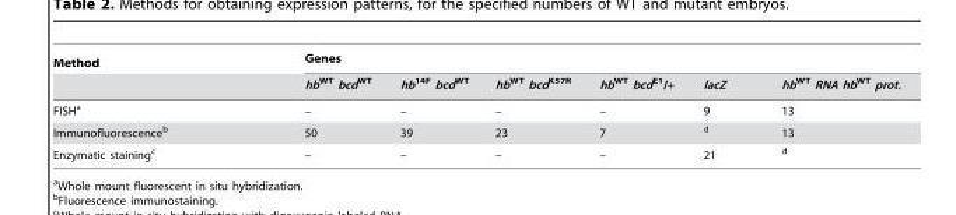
<table><thead><tr><td rowspan="2">Method</td><td colspan="6">Genes</td></tr><tr><td>hb<sup>WT</sup> bcd<sup>WT</sup></td><td>hb<sup>14F</sup> bcd<sup>WT</sup></td><td>hb<sup>WT</sup> bcd<sup>K57R</sup></td><td>hb<sup>WT</sup> bcd<sup>E1</sup>/+</td><td>lacZ</td><td>hb<sup>WT</sup> RNA hb<sup>WT</sup> prot.</td></tr></thead><tbody><tr><td>FISH<sup>a</sup></td><td>–</td><td>–</td><td>–</td><td>–</td><td>9</td><td>13</td></tr><tr><td>Immunofluorescence<sup>b</sup></td><td>50</td><td>39</td><td>23</td><td>7</td><td>d</td><td>13</td></tr><tr><td>Enzymatic staining<sup>c</sup></td><td>–</td><td>–</td><td>–</td><td>–</td><td>21</td><td>d</td></tr></tbody></table>